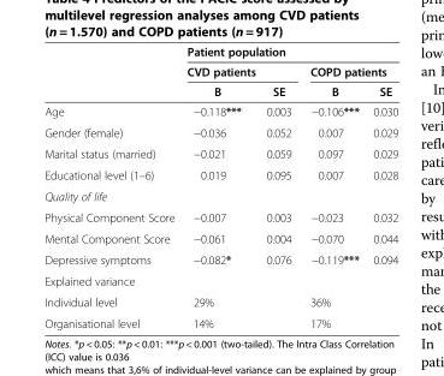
<table><thead><tr><td rowspan="3"></td><td colspan="4">Patient population</td></tr><tr><td colspan="2">CVD patients</td><td colspan="2">COPD patients</td></tr><tr><td>B</td><td>SE</td><td>B</td><td>SE</td></tr></thead><tbody><tr><td>Age</td><td>−0.118***</td><td>0.003</td><td>−0.106***</td><td>0.030</td></tr><tr><td>Gender (female)</td><td>−0.036</td><td>0.052</td><td>0.007</td><td>0.029</td></tr><tr><td>Marital status (married)</td><td>−0.021</td><td>0.059</td><td>0.097</td><td>0.029</td></tr><tr><td>Educational level (1–6)</td><td>0.019</td><td>0.095</td><td>0.007</td><td>0.028</td></tr><tr><td colspan="5">Quality of life</td></tr><tr><td>Physical Component Score</td><td>−0.007</td><td>0.003</td><td>−0.023</td><td>0.032</td></tr><tr><td>Mental Component Score</td><td>−0.061</td><td>0.004</td><td>−0.070</td><td>0.044</td></tr><tr><td>Depressive symptoms</td><td>−0.082*</td><td>0.076</td><td>−0.119***</td><td>0.094</td></tr><tr><td colspan="5">Explained variance</td></tr><tr><td>Individual level</td><td>29%</td><td></td><td>36%</td><td></td></tr><tr><td>Organisational level</td><td>14%</td><td></td><td>17%</td><td></td></tr></tbody></table>